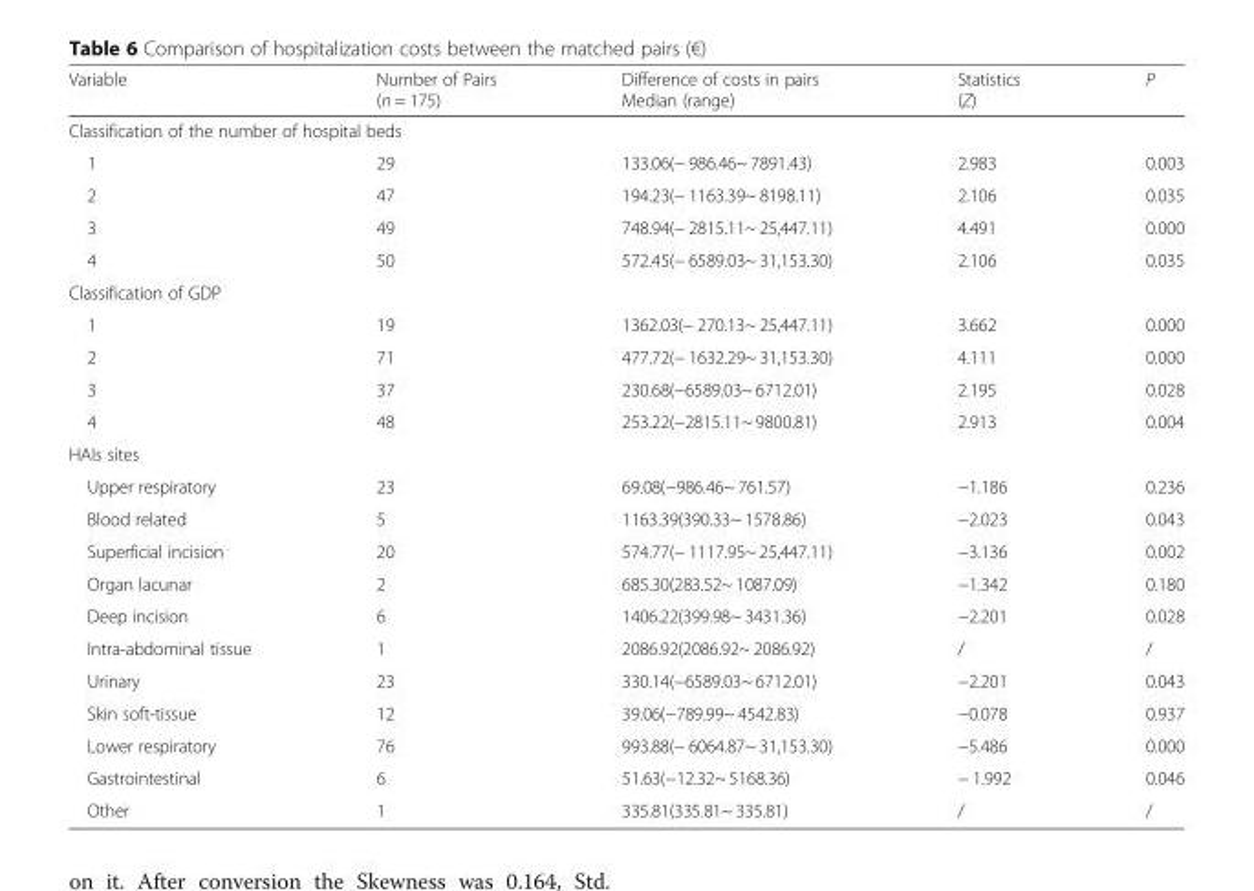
<table><thead><tr><td>Variable</td><td>Number of Pairs (n = 175)</td><td>Difference of costs in pairs Median (range)</td><td>Statistics (Z)</td><td>P</td></tr></thead><tbody><tr><td colspan="5">Classification of the number of hospital beds</td></tr><tr><td>1</td><td>29</td><td>133.06(− 986.46~ 7891.43)</td><td>2.983</td><td>0.003</td></tr><tr><td>2</td><td>47</td><td>194.23(− 1163.39~ 8198.11)</td><td>2.106</td><td>0.035</td></tr><tr><td>3</td><td>49</td><td>748.94(− 2815.11~ 25,447.11)</td><td>4.491</td><td>0.000</td></tr><tr><td>4</td><td>50</td><td>572.45(− 6589.03~ 31,153.30)</td><td>2.106</td><td>0.035</td></tr><tr><td colspan="5">Classification of GDP</td></tr><tr><td>1</td><td>19</td><td>1362.03(− 270.13~ 25,447.11)</td><td>3.662</td><td>0.000</td></tr><tr><td>2</td><td>71</td><td>477.72(− 1632.29~ 31,153.30)</td><td>4.111</td><td>0.000</td></tr><tr><td>3</td><td>37</td><td>230.68(−6589.03~ 6712.01)</td><td>2.195</td><td>0.028</td></tr><tr><td>4</td><td>48</td><td>253.22(−2815.11~ 9800.81)</td><td>2.913</td><td>0.004</td></tr><tr><td colspan="5">HAIs sites</td></tr><tr><td>Upper respiratory</td><td>23</td><td>69.08(−986.46~ 761.57)</td><td>−1.186</td><td>0.236</td></tr><tr><td>Blood related</td><td>5</td><td>1163.39(390.33~ 1578.86)</td><td>−2.023</td><td>0.043</td></tr><tr><td>Superficial incision</td><td>20</td><td>574.77(− 1117.95~ 25,447.11)</td><td>−3.136</td><td>0.002</td></tr><tr><td>Organ lacunar</td><td>2</td><td>685.30(283.52~ 1087.09)</td><td>−1.342</td><td>0.180</td></tr><tr><td>Deep incision</td><td>6</td><td>1406.22(399.98~ 3431.36)</td><td>−2.201</td><td>0.028</td></tr><tr><td>Intra-abdominal tissue</td><td>1</td><td>2086.92(2086.92~ 2086.92)</td><td>/</td><td>/</td></tr><tr><td>Urinary</td><td>23</td><td>330.14(−6589.03~ 6712.01)</td><td>−2.201</td><td>0.043</td></tr><tr><td>Skin soft-tissue</td><td>12</td><td>39.06(−789.99~ 4542.83)</td><td>−0.078</td><td>0.937</td></tr><tr><td>Lower respiratory</td><td>76</td><td>993.88(− 6064.87~ 31,153.30)</td><td>−5.486</td><td>0.000</td></tr><tr><td>Gastrointestinal</td><td>6</td><td>51.63(−12.32~ 5168.36)</td><td>− 1.992</td><td>0.046</td></tr><tr><td>Other</td><td>1</td><td>335.81(335.81~ 335.81)</td><td>/</td><td>/</td></tr></tbody></table>